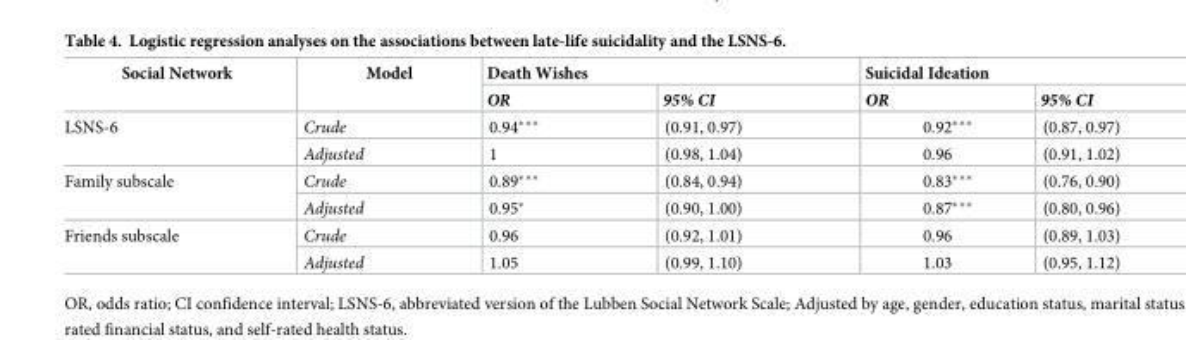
<table><thead><tr><td rowspan="2">Social Network</td><td rowspan="2">Model</td><td colspan="2">Death Wishes</td><td colspan="2">Suicidal Ideation</td></tr><tr><td>OR</td><td>95% CI</td><td>OR</td><td>95% CI</td></tr></thead><tbody><tr><td rowspan="2">LSNS-6</td><td>Crude</td><td>0.94***</td><td>(0.91, 0.97)</td><td>0.92***</td><td>(0.87, 0.97)</td></tr><tr><td>Adjusted</td><td>1</td><td>(0.98, 1.04)</td><td>0.96</td><td>(0.91, 1.02)</td></tr><tr><td rowspan="2">Family subscale</td><td>Crude</td><td>0.89***</td><td>(0.84, 0.94)</td><td>0.83***</td><td>(0.76, 0.90)</td></tr><tr><td>Adjusted</td><td>0.95*</td><td>(0.90, 1.00)</td><td>0.87***</td><td>(0.80, 0.96)</td></tr><tr><td rowspan="2">Friends subscale</td><td>Crude</td><td>0.96</td><td>(0.92, 1.01)</td><td>0.96</td><td>(0.89, 1.03)</td></tr><tr><td>Adjusted</td><td>1.05</td><td>(0.99, 1.10)</td><td>1.03</td><td>(0.95, 1.12)</td></tr></tbody></table>